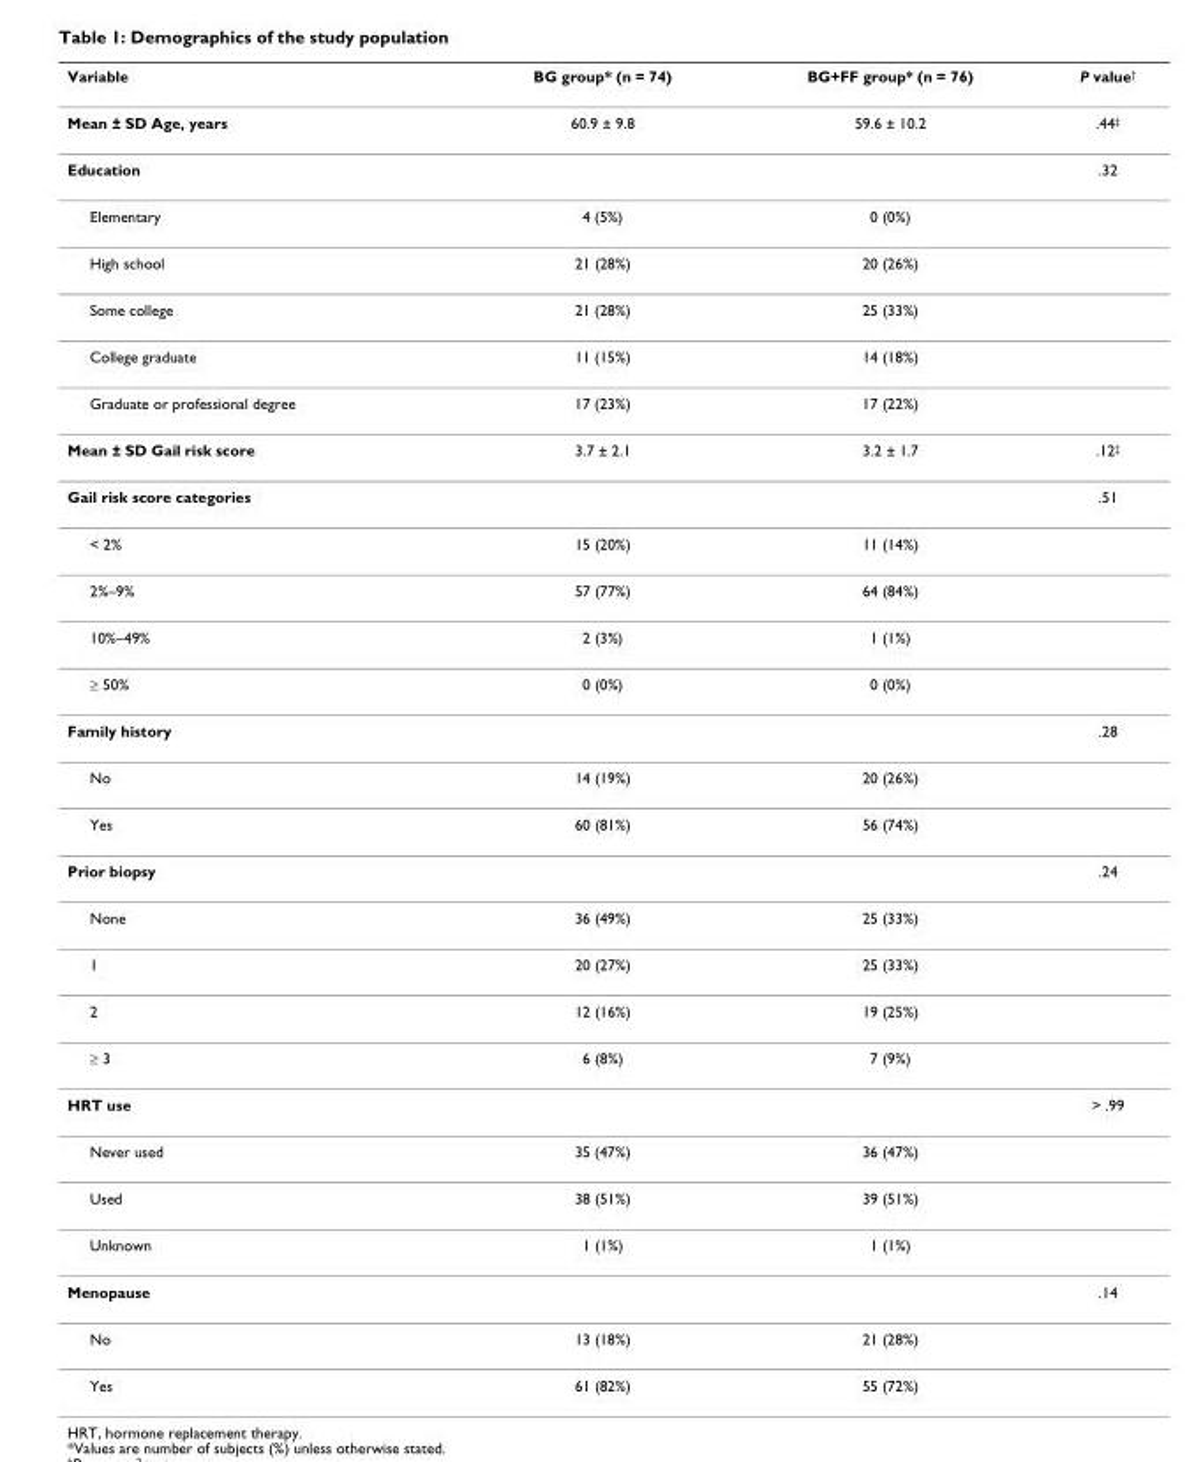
<table><thead><tr><td>Variable</td><td>BG group* (n = 74)</td><td>BG+FF group* (n = 76)</td><td>P value<sup>†</sup></td></tr></thead><tbody><tr><td>Mean ± SD Age, years</td><td>60.9 ± 9.8</td><td>59.6 ± 10.2</td><td>.44<sup>‡</sup></td></tr><tr><td>Education</td><td></td><td></td><td>.32</td></tr><tr><td>Elementary</td><td>4 (5%)</td><td>0 (0%)</td><td></td></tr><tr><td>High school</td><td>21 (28%)</td><td>20 (26%)</td><td></td></tr><tr><td>Some college</td><td>21 (28%)</td><td>25 (33%)</td><td></td></tr><tr><td>College graduate</td><td>11 (15%)</td><td>14 (18%)</td><td></td></tr><tr><td>Graduate or professional degree</td><td>17 (23%)</td><td>17 (22%)</td><td></td></tr><tr><td>Mean ± SD Gail risk score</td><td>3.7 ± 2.1</td><td>3.2 ± 1.7</td><td>.12<sup>‡</sup></td></tr><tr><td>Gail risk score categories</td><td></td><td></td><td>.51</td></tr><tr><td>&lt; 2%</td><td>15 (20%)</td><td>11 (14%)</td><td></td></tr><tr><td>2%–9%</td><td>57 (77%)</td><td>64 (84%)</td><td></td></tr><tr><td>10%–49%</td><td>2 (3%)</td><td>1 (1%)</td><td></td></tr><tr><td>≥ 50%</td><td>0 (0%)</td><td>0 (0%)</td><td></td></tr><tr><td>Family history</td><td></td><td></td><td>.28</td></tr><tr><td>No</td><td>14 (19%)</td><td>20 (26%)</td><td></td></tr><tr><td>Yes</td><td>60 (81%)</td><td>56 (74%)</td><td></td></tr><tr><td>Prior biopsy</td><td></td><td></td><td>.24</td></tr><tr><td>None</td><td>36 (49%)</td><td>25 (33%)</td><td></td></tr><tr><td>1</td><td>20 (27%)</td><td>25 (33%)</td><td></td></tr><tr><td>2</td><td>12 (16%)</td><td>19 (25%)</td><td></td></tr><tr><td>≥ 3</td><td>6 (8%)</td><td>7 (9%)</td><td></td></tr><tr><td>HRT use</td><td></td><td></td><td>&gt; .99</td></tr><tr><td>Never used</td><td>35 (47%)</td><td>36 (47%)</td><td></td></tr><tr><td>Used</td><td>38 (51%)</td><td>39 (51%)</td><td></td></tr><tr><td>Unknown</td><td>1 (1%)</td><td>1 (1%)</td><td></td></tr><tr><td>Menopause</td><td></td><td></td><td>.14</td></tr><tr><td>No</td><td>13 (18%)</td><td>21 (28%)</td><td></td></tr><tr><td>Yes</td><td>61 (82%)</td><td>55 (72%)</td><td></td></tr></tbody></table>